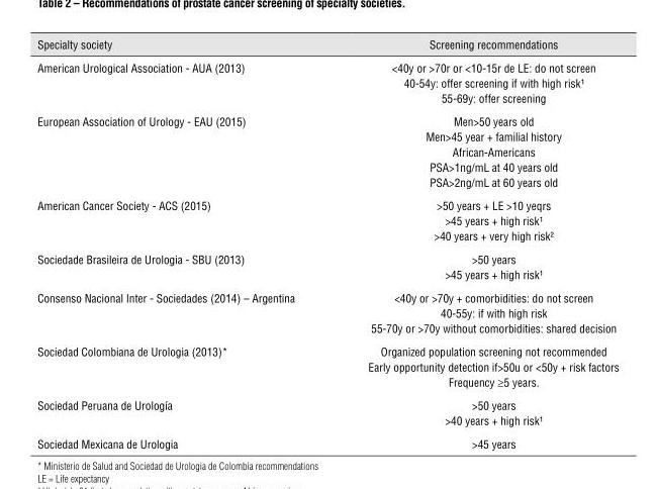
<table><thead><tr><td>Specialty society</td><td>Screening recommendations</td></tr></thead><tbody><tr><td rowspan="3">American Urological Association - AUA (2013)</td><td>&lt;40y or &gt;70r or &lt;10-15r de LE: do not screen</td></tr><tr><td>40-54y: offer screening if with high risk¹</td></tr><tr><td>55-69y: offer screening</td></tr><tr><td rowspan="5">European Association of Urology - EAU (2015)</td><td>Men&gt;50 years old</td></tr><tr><td>Men&gt;45 year + familial history</td></tr><tr><td>African-Americans</td></tr><tr><td>PSA&gt;1ng/mL at 40 years old</td></tr><tr><td>PSA&gt;2ng/mL at 60 years old</td></tr><tr><td rowspan="3">American Cancer Society - ACS (2015)</td><td>&gt;50 years + LE &gt;10 yeqrs</td></tr><tr><td>&gt;45 years + high risk¹</td></tr><tr><td>&gt;40 years + very high risk²</td></tr><tr><td rowspan="2">Sociedade Brasileira de Urologia - SBU (2013)</td><td>&gt;50 years</td></tr><tr><td>&gt;45 years + high risk¹</td></tr><tr><td rowspan="3">Consenso Nacional Inter - Sociedades (2014) – Argentina</td><td>&lt;40y or &gt;70y + comorbidities: do not screen</td></tr><tr><td>40-55y: if with high risk</td></tr><tr><td>55-70y or &gt;70y without comorbidities: shared decision</td></tr><tr><td rowspan="3">Sociedad Colombiana de Urologia (2013)*</td><td>Organized population screening not recommended</td></tr><tr><td>Early opportunity detection if&gt;50u or &lt;50y + risk factors</td></tr><tr><td>Frequency ≥5 years.</td></tr><tr><td rowspan="2">Sociedad Peruana de Urología</td><td>&gt;50 years</td></tr><tr><td>&gt;40 years + high risk¹</td></tr><tr><td>Sociedad Mexicana de Urologia</td><td>&gt;45 years</td></tr></tbody></table>